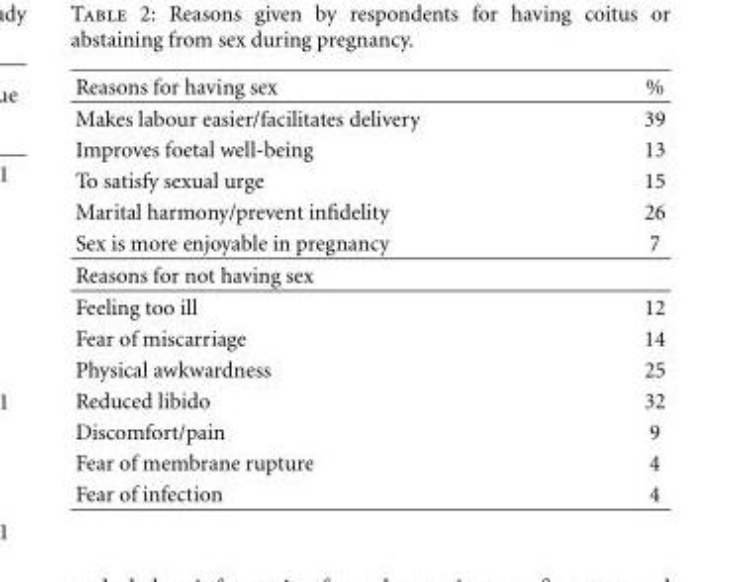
<table><thead><tr><td>Reasons for having sex</td><td>%</td></tr></thead><tbody><tr><td>Makes labour easier/facilitates delivery</td><td>39</td></tr><tr><td>Improves foetal well-being</td><td>13</td></tr><tr><td>To satisfy sexual urge</td><td>15</td></tr><tr><td>Marital harmony/prevent infidelity</td><td>26</td></tr><tr><td>Sex is more enjoyable in pregnancy</td><td>7</td></tr><tr><td colspan="2">Reasons for not having sex</td></tr><tr><td>Feeling too ill</td><td>12</td></tr><tr><td>Fear of miscarriage</td><td>14</td></tr><tr><td>Physical awkwardness</td><td>25</td></tr><tr><td>Reduced libido</td><td>32</td></tr><tr><td>Discomfort/pain</td><td>9</td></tr><tr><td>Fear of membrane rupture</td><td>4</td></tr><tr><td>Fear of infection</td><td>4</td></tr></tbody></table>